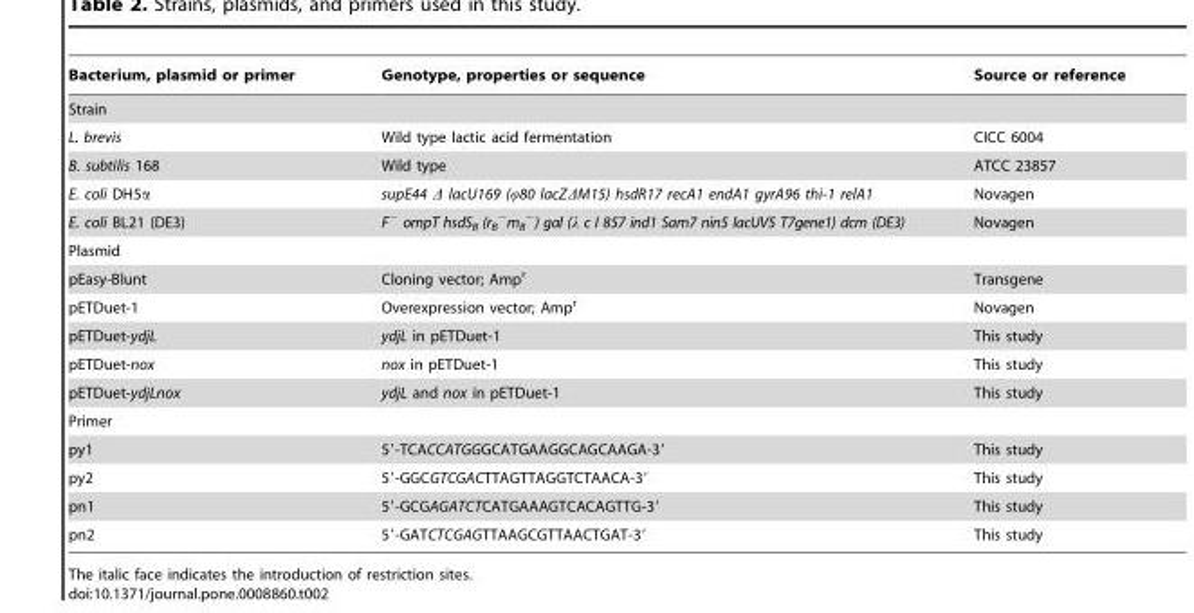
<table><thead><tr><td>Bacterium, plasmid or primer</td><td>Genotype, properties or sequence</td><td>Source or reference</td></tr></thead><tbody><tr><td colspan="3">Strain</td></tr><tr><td>L. brevis</td><td>Wild type lactic acid fermentation</td><td>CICC 6004</td></tr><tr><td>B. subtilis 168</td><td>Wild type</td><td>ATCC 23857</td></tr><tr><td>E. coli DH5α</td><td>supE44 Δ lacU169 (ϕ80 lacZΔM15) hsdR17 recA1 endA1 gyrA96 thi-1 relA1</td><td>Novagen</td></tr><tr><td>E. coli BL21 (DE3)</td><td>F<sup>−</sup> ompT hsdS<sub>B</sub> (r<sub>B</sub> <sup>−</sup>m<sub>B</sub> <sup>−</sup>) gal (λ c I 857 ind1 Sam7 nin5 lacUV5 T7gene1) dcm (DE3)</td><td>Novagen</td></tr><tr><td colspan="3">Plasmid</td></tr><tr><td>pEasy-Blunt</td><td>Cloning vector; Amp<sup>r</sup></td><td>Transgene</td></tr><tr><td>pETDuet-1</td><td>Overexpression vector; Amp<sup>r</sup></td><td>Novagen</td></tr><tr><td>pETDuet-ydjL</td><td>ydjL in pETDuet-1</td><td>This study</td></tr><tr><td>pETDuet-nox</td><td>nox in pETDuet-1</td><td>This study</td></tr><tr><td>pETDuet-ydjLnox</td><td>ydjL and nox in pETDuet-1</td><td>This study</td></tr><tr><td colspan="3">Primer</td></tr><tr><td>py1</td><td>5′-TCACCATGGGCATGAAGGCAGCAAGA-3′</td><td>This study</td></tr><tr><td>py2</td><td>5′-GGCGTCGACTTAGTTAGGTCTAACA-3′</td><td>This study</td></tr><tr><td>pn1</td><td>5′-GCGAGATCTCATGAAAGTCACAGTTG-3′</td><td>This study</td></tr><tr><td>pn2</td><td>5′-GATCTCGAGTTAAGCGTTAACTGAT-3′</td><td>This study</td></tr></tbody></table>